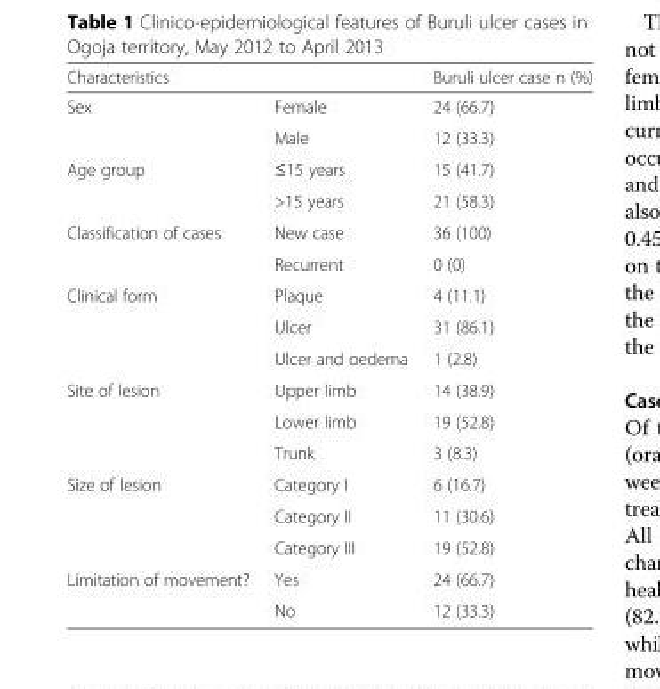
<table><thead><tr><td>Characteristics</td><td></td><td>Buruli ulcer case n (%)</td></tr></thead><tbody><tr><td rowspan="2">Sex</td><td>Female</td><td>24 (66.7)</td></tr><tr><td>Male</td><td>12 (33.3)</td></tr><tr><td rowspan="2">Age group</td><td>≤15 years</td><td>15 (41.7)</td></tr><tr><td>&gt;15 years</td><td>21 (58.3)</td></tr><tr><td rowspan="2">Classification of cases</td><td>New case</td><td>36 (100)</td></tr><tr><td>Recurrent</td><td>0 (0)</td></tr><tr><td rowspan="3">Clinical form</td><td>Plaque</td><td>4 (11.1)</td></tr><tr><td>Ulcer</td><td>31 (86.1)</td></tr><tr><td>Ulcer and oedema</td><td>1 (2.8)</td></tr><tr><td rowspan="3">Site of lesion</td><td>Upper limb</td><td>14 (38.9)</td></tr><tr><td>Lower limb</td><td>19 (52.8)</td></tr><tr><td>Trunk</td><td>3 (8.3)</td></tr><tr><td rowspan="3">Size of lesion</td><td>Category I</td><td>6 (16.7)</td></tr><tr><td>Category II</td><td>11 (30.6)</td></tr><tr><td>Category III</td><td>19 (52.8)</td></tr><tr><td rowspan="2">Limitation of movement?</td><td>Yes</td><td>24 (66.7)</td></tr><tr><td>No</td><td>12 (33.3)</td></tr></tbody></table>